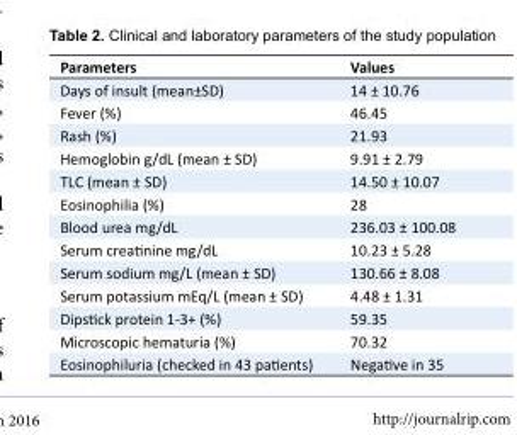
<table><tbody><tr><td>Parameters</td><td>Values</td></tr><tr><td>Days of insult (mean±SD)</td><td>14 ± 10.76</td></tr><tr><td>Fever (%)</td><td>46.45</td></tr><tr><td>Rash (%)</td><td>21.93</td></tr><tr><td>Hemoglobin g/dL (mean ± SD)</td><td>9.91 ± 2.79</td></tr><tr><td>TLC (mean ± SD)</td><td>14.50 ± 10.07</td></tr><tr><td>Eosinophilia (%)</td><td>28</td></tr><tr><td>Blood urea mg/dL</td><td>236.03 ± 100.08</td></tr><tr><td>Serum creatinine mg/dL</td><td>10.23 ± 5.28</td></tr><tr><td>Serum sodium mg/L (mean ± SD)</td><td>130.66 ± 8.08</td></tr><tr><td>Serum potassium mEq/L (mean ± SD)</td><td>4.48 ± 1.31</td></tr><tr><td>Dipstick protein 1-3+ (%)</td><td>59.35</td></tr><tr><td>Microscopic hematuria (%)</td><td>70.32</td></tr><tr><td>Eosinophiluria (checked in 43 patients)</td><td>Negative in 35</td></tr></tbody></table>